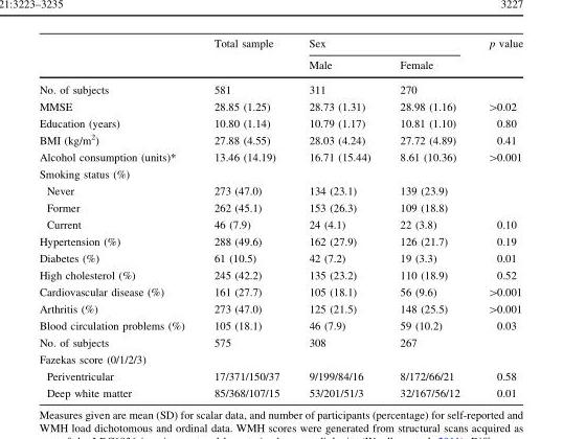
<table><thead><tr><td rowspan="2"></td><td rowspan="2">Total sample</td><td colspan="2">Sex</td><td rowspan="2">p value</td></tr><tr><td>Male</td><td>Female</td></tr></thead><tbody><tr><td>No. of subjects</td><td>581</td><td>311</td><td>270</td><td></td></tr><tr><td>MMSE</td><td>28.85 (1.25)</td><td>28.73 (1.31)</td><td>28.98 (1.16)</td><td>&gt;0.02</td></tr><tr><td>Education (years)</td><td>10.80 (1.14)</td><td>10.79 (1.17)</td><td>10.81 (1.10)</td><td>0.80</td></tr><tr><td>BMI (kg/m<sup>2</sup>)</td><td>27.88 (4.55)</td><td>28.03 (4.24)</td><td>27.72 (4.89)</td><td>0.41</td></tr><tr><td>Alcohol consumption (units)*</td><td>13.46 (14.19)</td><td>16.71 (15.44)</td><td>8.61 (10.36)</td><td>&gt;0.001</td></tr><tr><td colspan="5">Smoking status (%)</td></tr><tr><td>Never</td><td>273 (47.0)</td><td>134 (23.1)</td><td>139 (23.9)</td><td></td></tr><tr><td>Former</td><td>262 (45.1)</td><td>153 (26.3)</td><td>109 (18.8)</td><td></td></tr><tr><td>Current</td><td>46 (7.9)</td><td>24 (4.1)</td><td>22 (3.8)</td><td>0.10</td></tr><tr><td>Hypertension (%)</td><td>288 (49.6)</td><td>162 (27.9)</td><td>126 (21.7)</td><td>0.19</td></tr><tr><td>Diabetes (%)</td><td>61 (10.5)</td><td>42 (7.2)</td><td>19 (3.3)</td><td>0.01</td></tr><tr><td>High cholesterol (%)</td><td>245 (42.2)</td><td>135 (23.2)</td><td>110 (18.9)</td><td>0.52</td></tr><tr><td>Cardiovascular disease (%)</td><td>161 (27.7)</td><td>105 (18.1)</td><td>56 (9.6)</td><td>&gt;0.001</td></tr><tr><td>Arthritis (%)</td><td>273 (47.0)</td><td>125 (21.5)</td><td>148 (25.5)</td><td>&gt;0.001</td></tr><tr><td>Blood circulation problems (%)</td><td>105 (18.1)</td><td>46 (7.9)</td><td>59 (10.2)</td><td>0.03</td></tr><tr><td>No. of subjects</td><td>575</td><td>308</td><td>267</td><td></td></tr><tr><td colspan="5">Fazekas score (0/1/2/3)</td></tr><tr><td>Periventricular</td><td>17/371/150/37</td><td>9/199/84/16</td><td>8/172/66/21</td><td>0.58</td></tr><tr><td>Deep white matter</td><td>85/368/107/15</td><td>53/201/51/3</td><td>32/167/56/12</td><td>0.01</td></tr></tbody></table>